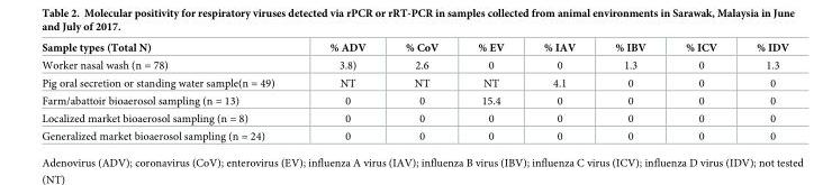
<table><thead><tr><td>Sample types (Total N)</td><td>% ADV</td><td>% CoV</td><td>% EV</td><td>% IAV</td><td>% IBV</td><td>% ICV</td><td>% IDV</td></tr></thead><tbody><tr><td>Worker nasal wash (n = 78)</td><td>3.8)</td><td>2.6</td><td>0</td><td>0</td><td>1.3</td><td>0</td><td>1.3</td></tr><tr><td>Pig oral secretion or standing water sample(n = 49)</td><td>NT</td><td>NT</td><td>NT</td><td>4.1</td><td>0</td><td>0</td><td>0</td></tr><tr><td>Farm/abattoir bioaerosol sampling (n = 13)</td><td>0</td><td>0</td><td>15.4</td><td>0</td><td>0</td><td>0</td><td>0</td></tr><tr><td>Localized market bioaerosol sampling (n = 8)</td><td>0</td><td>0</td><td>0</td><td>0</td><td>0</td><td>0</td><td>0</td></tr><tr><td>Generalized market bioaerosol sampling (n = 24)</td><td>0</td><td>0</td><td>0</td><td>0</td><td>0</td><td>0</td><td>0</td></tr></tbody></table>